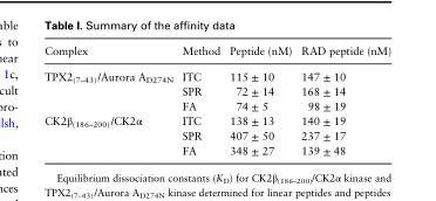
<table><thead><tr><td>Complex</td><td>Method</td><td>Peptide (nM)</td><td>RAD peptide (nM)</td></tr></thead><tbody><tr><td rowspan="3">TPX2<sub>(7–43)</sub>/Aurora A<sub>D274N</sub></td><td>ITC</td><td>115 ± 10</td><td>147 ± 10</td></tr><tr><td>SPR</td><td>72 ± 14</td><td>168 ± 14</td></tr><tr><td>FA</td><td>74 ± 5</td><td>98 ± 19</td></tr><tr><td rowspan="3">CK2β<sub>(186–200)</sub>/CK2α</td><td>ITC</td><td>138 ± 13</td><td>140 ± 19</td></tr><tr><td>SPR</td><td>407 ± 50</td><td>237 ± 17</td></tr><tr><td>FA</td><td>348 ± 27</td><td>139 ± 48</td></tr></tbody></table>